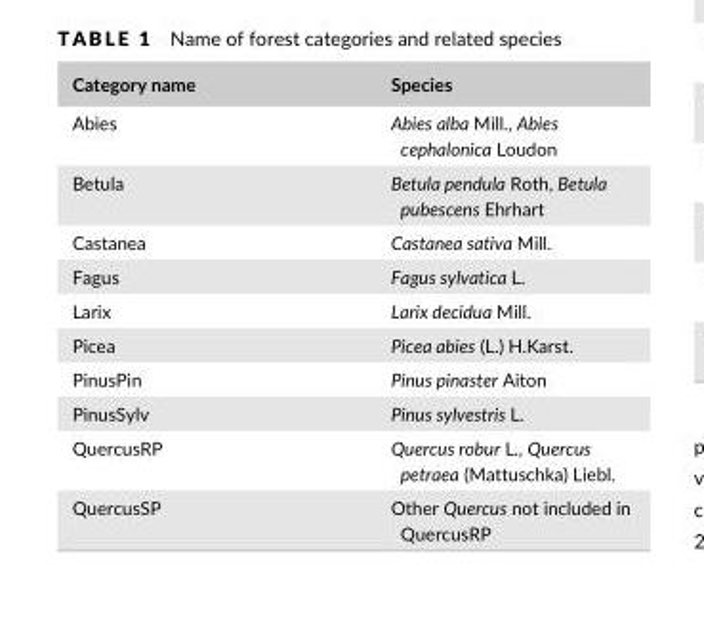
<table><thead><tr><td>Category name</td><td>Species</td></tr></thead><tbody><tr><td>Abies</td><td>Abies alba Mill., Abies cephalonica Loudon</td></tr><tr><td>Betula</td><td>Betula pendula Roth, Betula pubescens Ehrhart</td></tr><tr><td>Castanea</td><td>Castanea sativa Mill.</td></tr><tr><td>Fagus</td><td>Fagus sylvatica L.</td></tr><tr><td>Larix</td><td>Larix decidua Mill.</td></tr><tr><td>Picea</td><td>Picea abies (L.) H.Karst.</td></tr><tr><td>PinusPin</td><td>Pinus pinaster Aiton</td></tr><tr><td>PinusSylv</td><td>Pinus sylvestris L.</td></tr><tr><td>QuercusRP</td><td>Quercus robur L., Quercus petraea (Mattuschka) Liebl.</td></tr><tr><td>QuercusSP</td><td>Other Quercus not included in QuercusRP</td></tr></tbody></table>